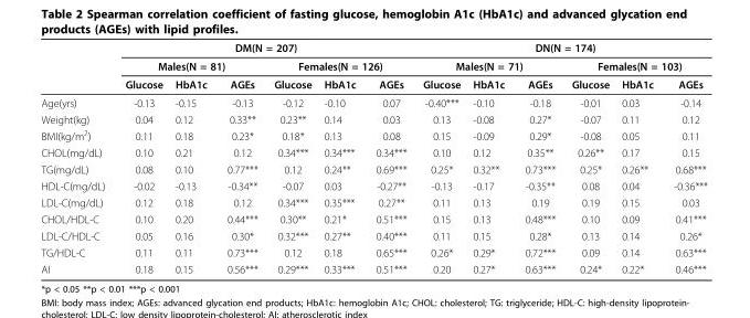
<table><thead><tr><td rowspan="3"></td><td colspan="6">DM(N = 207)</td><td colspan="6">DN(N = 174)</td></tr><tr><td colspan="3">Males(N = 81)</td><td colspan="3">Females(N = 126)</td><td colspan="3">Males(N = 71)</td><td colspan="3">Females(N = 103)</td></tr><tr><td>Glucose</td><td>HbA1c</td><td>AGEs</td><td>Glucose</td><td>HbA1c</td><td>AGEs</td><td>Glucose</td><td>HbA1c</td><td>AGEs</td><td>Glucose</td><td>HbA1c</td><td>AGEs</td></tr></thead><tbody><tr><td>Age(yrs)</td><td>-0.13</td><td>-0.15</td><td>-0.13</td><td>-0.12</td><td>-0.10</td><td>0.07</td><td>-0.40***</td><td>-0.10</td><td>-0.18</td><td>-0.01</td><td>0.03</td><td>-0.14</td></tr><tr><td>Weight(kg)</td><td>0.04</td><td>0.12</td><td>0.33**</td><td>0.23**</td><td>0.14</td><td>0.03</td><td>0.13</td><td>-0.08</td><td>0.27*</td><td>-0.07</td><td>0.11</td><td>0.12</td></tr><tr><td>BMI(kg/m<sup>2</sup>)</td><td>0.11</td><td>0.18</td><td>0.23*</td><td>0.18*</td><td>0.13</td><td>0.08</td><td>0.15</td><td>-0.09</td><td>0.29*</td><td>-0.08</td><td>0.05</td><td>0.11</td></tr><tr><td>CHOL(mg/dL)</td><td>0.10</td><td>0.21</td><td>0.12</td><td>0.34***</td><td>0.34***</td><td>0.34***</td><td>0.10</td><td>0.12</td><td>0.35**</td><td>0.26**</td><td>0.17</td><td>0.15</td></tr><tr><td>TG(mg/dL)</td><td>0.08</td><td>0.10</td><td>0.77***</td><td>0.12</td><td>0.24**</td><td>0.69***</td><td>0.25*</td><td>0.32**</td><td>0.73***</td><td>0.25*</td><td>0.26**</td><td>0.68***</td></tr><tr><td>HDL-C(mg/dL)</td><td>-0.02</td><td>-0.13</td><td>-0.34**</td><td>-0.07</td><td>0.03</td><td>-0.27**</td><td>-0.13</td><td>-0.17</td><td>-0.35**</td><td>0.08</td><td>0.04</td><td>-0.36***</td></tr><tr><td>LDL-C(mg/dL)</td><td>0.12</td><td>0.18</td><td>0.12</td><td>0.34***</td><td>0.35***</td><td>0.27**</td><td>0.11</td><td>0.13</td><td>0.19</td><td>0.19</td><td>0.15</td><td>0.03</td></tr><tr><td>CHOL/HDL-C</td><td>0.10</td><td>0.20</td><td>0.44***</td><td>0.30**</td><td>0.21*</td><td>0.51***</td><td>0.15</td><td>0.13</td><td>0.48***</td><td>0.10</td><td>0.09</td><td>0.41***</td></tr><tr><td>LDL-C/HDL-C</td><td>0.05</td><td>0.16</td><td>0.30*</td><td>0.32***</td><td>0.27**</td><td>0.40***</td><td>0.11</td><td>0.15</td><td>0.28*</td><td>0.13</td><td>0.14</td><td>0.26*</td></tr><tr><td>TG/HDL-C</td><td>0.11</td><td>0.11</td><td>0.73***</td><td>0.12</td><td>0.18</td><td>0.65***</td><td>0.26*</td><td>0.29*</td><td>0.72***</td><td>0.09</td><td>0.14</td><td>0.63***</td></tr><tr><td>AI</td><td>0.18</td><td>0.15</td><td>0.56***</td><td>0.29***</td><td>0.33***</td><td>0.51***</td><td>0.20</td><td>0.27*</td><td>0.63***</td><td>0.24*</td><td>0.22*</td><td>0.46***</td></tr></tbody></table>